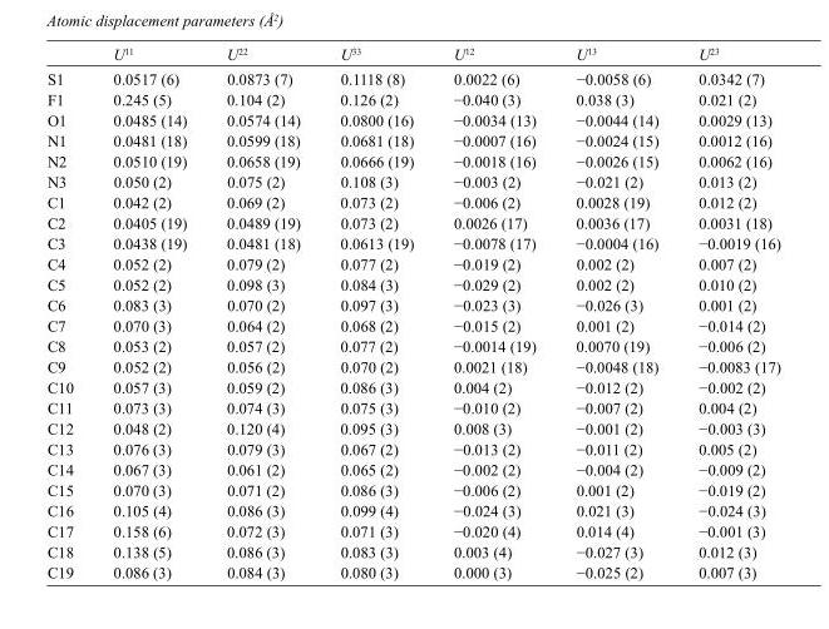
<table><thead><tr><td></td><td>U<sup>11</sup></td><td>U<sup>22</sup></td><td>U<sup>33</sup></td><td>U<sup>12</sup></td><td>U<sup>13</sup></td><td>U<sup>23</sup></td></tr></thead><tbody><tr><td>S1</td><td>0.0517 (6)</td><td>0.0873 (7)</td><td>0.1118 (8)</td><td>0.0022 (6)</td><td>−0.0058 (6)</td><td>0.0342 (7)</td></tr><tr><td>F1</td><td>0.245 (5)</td><td>0.104 (2)</td><td>0.126 (2)</td><td>−0.040 (3)</td><td>0.038 (3)</td><td>0.021 (2)</td></tr><tr><td>O1</td><td>0.0485 (14)</td><td>0.0574 (14)</td><td>0.0800 (16)</td><td>−0.0034 (13)</td><td>−0.0044 (14)</td><td>0.0029 (13)</td></tr><tr><td>N1</td><td>0.0481 (18)</td><td>0.0599 (18)</td><td>0.0681 (18)</td><td>−0.0007 (16)</td><td>−0.0024 (15)</td><td>0.0012 (16)</td></tr><tr><td>N2</td><td>0.0510 (19)</td><td>0.0658 (19)</td><td>0.0666 (19)</td><td>−0.0018 (16)</td><td>−0.0026 (15)</td><td>0.0062 (16)</td></tr><tr><td>N3</td><td>0.050 (2)</td><td>0.075 (2)</td><td>0.108 (3)</td><td>−0.003 (2)</td><td>−0.021 (2)</td><td>0.013 (2)</td></tr><tr><td>C1</td><td>0.042 (2)</td><td>0.069 (2)</td><td>0.073 (2)</td><td>−0.006 (2)</td><td>0.0028 (19)</td><td>0.012 (2)</td></tr><tr><td>C2</td><td>0.0405 (19)</td><td>0.0489 (19)</td><td>0.073 (2)</td><td>0.0026 (17)</td><td>0.0036 (17)</td><td>0.0031 (18)</td></tr><tr><td>C3</td><td>0.0438 (19)</td><td>0.0481 (18)</td><td>0.0613 (19)</td><td>−0.0078 (17)</td><td>−0.0004 (16)</td><td>−0.0019 (16)</td></tr><tr><td>C4</td><td>0.052 (2)</td><td>0.079 (2)</td><td>0.077 (2)</td><td>−0.019 (2)</td><td>0.002 (2)</td><td>0.007 (2)</td></tr><tr><td>C5</td><td>0.052 (2)</td><td>0.098 (3)</td><td>0.084 (3)</td><td>−0.029 (2)</td><td>0.002 (2)</td><td>0.010 (2)</td></tr><tr><td>C6</td><td>0.083 (3)</td><td>0.070 (2)</td><td>0.097 (3)</td><td>−0.023 (3)</td><td>−0.026 (3)</td><td>0.001 (2)</td></tr><tr><td>C7</td><td>0.070 (3)</td><td>0.064 (2)</td><td>0.068 (2)</td><td>−0.015 (2)</td><td>0.001 (2)</td><td>−0.014 (2)</td></tr><tr><td>C8</td><td>0.053 (2)</td><td>0.057 (2)</td><td>0.077 (2)</td><td>−0.0014 (19)</td><td>0.0070 (19)</td><td>−0.006 (2)</td></tr><tr><td>C9</td><td>0.052 (2)</td><td>0.056 (2)</td><td>0.070 (2)</td><td>0.0021 (18)</td><td>−0.0048 (18)</td><td>−0.0083 (17)</td></tr><tr><td>C10</td><td>0.057 (3)</td><td>0.059 (2)</td><td>0.086 (3)</td><td>0.004 (2)</td><td>−0.012 (2)</td><td>−0.002 (2)</td></tr><tr><td>C11</td><td>0.073 (3)</td><td>0.074 (3)</td><td>0.075 (3)</td><td>−0.010 (2)</td><td>−0.007 (2)</td><td>0.004 (2)</td></tr><tr><td>C12</td><td>0.048 (2)</td><td>0.120 (4)</td><td>0.095 (3)</td><td>0.008 (3)</td><td>−0.001 (2)</td><td>−0.003 (3)</td></tr><tr><td>C13</td><td>0.076 (3)</td><td>0.079 (3)</td><td>0.067 (2)</td><td>−0.013 (2)</td><td>−0.011 (2)</td><td>0.005 (2)</td></tr><tr><td>C14</td><td>0.067 (3)</td><td>0.061 (2)</td><td>0.065 (2)</td><td>−0.002 (2)</td><td>−0.004 (2)</td><td>−0.009 (2)</td></tr><tr><td>C15</td><td>0.070 (3)</td><td>0.071 (2)</td><td>0.086 (3)</td><td>−0.006 (2)</td><td>0.001 (2)</td><td>−0.019 (2)</td></tr><tr><td>C16</td><td>0.105 (4)</td><td>0.086 (3)</td><td>0.099 (4)</td><td>−0.024 (3)</td><td>0.021 (3)</td><td>−0.024 (3)</td></tr><tr><td>C17</td><td>0.158 (6)</td><td>0.072 (3)</td><td>0.071 (3)</td><td>−0.020 (4)</td><td>0.014 (4)</td><td>−0.001 (3)</td></tr><tr><td>C18</td><td>0.138 (5)</td><td>0.086 (3)</td><td>0.083 (3)</td><td>0.003 (4)</td><td>−0.027 (3)</td><td>0.012 (3)</td></tr><tr><td>C19</td><td>0.086 (3)</td><td>0.084 (3)</td><td>0.080 (3)</td><td>0.000 (3)</td><td>−0.025 (2)</td><td>0.007 (3)</td></tr></tbody></table>